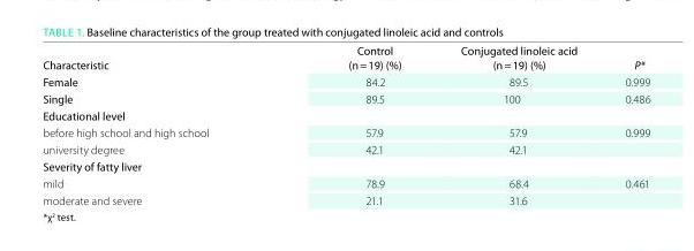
<table><thead><tr><td>characteristic</td><td>control (n = 19) (%)</td><td>conjugated linoleic acid (n = 19) (%)</td><td>P*</td></tr></thead><tbody><tr><td>Female</td><td>84.2</td><td>89.5</td><td>0.999</td></tr><tr><td>single</td><td>89.5</td><td>100</td><td>0.486</td></tr><tr><td colspan="4">Educational level</td></tr><tr><td>before high school and high school</td><td>57.9</td><td>57.9</td><td rowspan="2">0.999</td></tr><tr><td>university degree</td><td>42.1</td><td>42.1</td></tr><tr><td colspan="4">severity of fatty liver</td></tr><tr><td>mild</td><td>78.9</td><td>68.4</td><td rowspan="2">0.461</td></tr><tr><td>moderate and severe</td><td>21.1</td><td>31.6</td></tr></tbody></table>